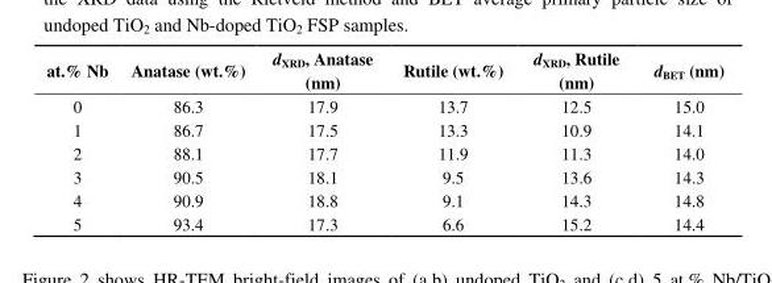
<table><thead><tr><td>at.% Nb</td><td>Anatase (wt.%)</td><td>d<sub>XRD</sub>, Anatase (nm)</td><td>Rutile (wt.%)</td><td>d<sub>XRD</sub>, Rutile (nm)</td><td>d<sub>BET</sub> (nm)</td></tr></thead><tbody><tr><td>0</td><td>86.3</td><td>17.9</td><td>13.7</td><td>12.5</td><td>15.0</td></tr><tr><td>1</td><td>86.7</td><td>17.5</td><td>13.3</td><td>10.9</td><td>14.1</td></tr><tr><td>2</td><td>88.1</td><td>17.7</td><td>11.9</td><td>11.3</td><td>14.0</td></tr><tr><td>3</td><td>90.5</td><td>18.1</td><td>9.5</td><td>13.6</td><td>14.3</td></tr><tr><td>4</td><td>90.9</td><td>18.8</td><td>9.1</td><td>14.3</td><td>14.8</td></tr><tr><td>5</td><td>93.4</td><td>17.3</td><td>6.6</td><td>15.2</td><td>14.4</td></tr></tbody></table>